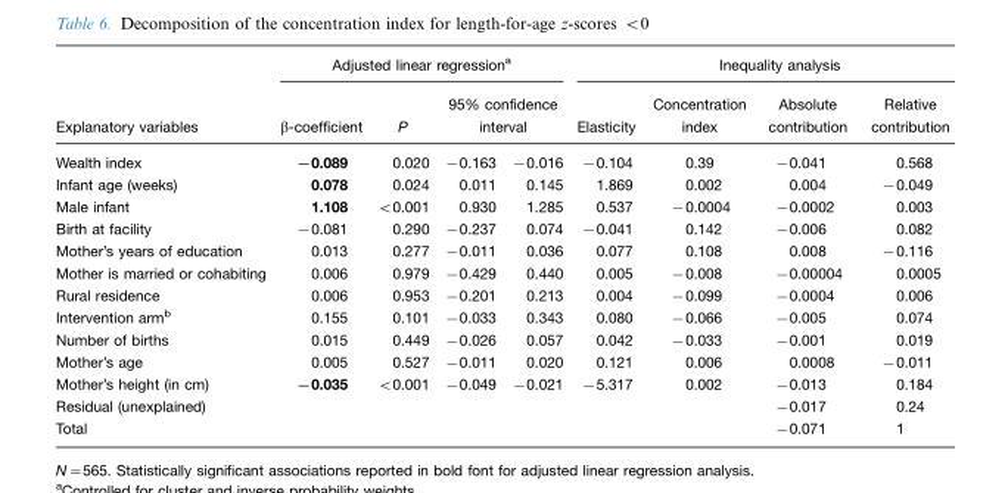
<table><thead><tr><td rowspan="3">Explanatory variables Wealth index</td><td colspan="4">Adjusted linear regression<sup>a</sup></td><td colspan="4">Inequality analysis</td></tr><tr><td rowspan="2">β-coefficient −0.089</td><td rowspan="2">P 0.020</td><td colspan="2">95% confidence interval</td><td rowspan="2">Elasticity −0.104</td><td rowspan="2">Concentration index 0.39</td><td rowspan="2">Absolute contribution −0.041</td><td rowspan="2">Relative contribution 0.568</td></tr><tr><td>−0.163</td><td>−0.016</td></tr></thead><tbody><tr><td>Infant age (weeks)</td><td>0.078</td><td>0.024</td><td>0.011</td><td>0.145</td><td>1.869</td><td>0.002</td><td>0.004</td><td>−0.049</td></tr><tr><td>Male infant</td><td>1.108</td><td>&lt;0.001</td><td>0.930</td><td>1.285</td><td>0.537</td><td>−0.0004</td><td>−0.0002</td><td>0.003</td></tr><tr><td>Birth at facility</td><td>−0.081</td><td>0.290</td><td>−0.237</td><td>0.074</td><td>−0.041</td><td>0.142</td><td>−0.006</td><td>0.082</td></tr><tr><td>Mother’s years of education</td><td>0.013</td><td>0.277</td><td>−0.011</td><td>0.036</td><td>0.077</td><td>0.108</td><td>0.008</td><td>−0.116</td></tr><tr><td>Mother is married or cohabiting</td><td>0.006</td><td>0.979</td><td>−0.429</td><td>0.440</td><td>0.005</td><td>−0.008</td><td>−0.00004</td><td>0.0005</td></tr><tr><td>Rural residence</td><td>0.006</td><td>0.953</td><td>−0.201</td><td>0.213</td><td>0.004</td><td>−0.099</td><td>−0.0004</td><td>0.006</td></tr><tr><td>Intervention arm<sup>b</sup></td><td>0.155</td><td>0.101</td><td>−0.033</td><td>0.343</td><td>0.080</td><td>−0.066</td><td>−0.005</td><td>0.074</td></tr><tr><td>Number of births</td><td>0.015</td><td>0.449</td><td>−0.026</td><td>0.057</td><td>0.042</td><td>−0.033</td><td>−0.001</td><td>0.019</td></tr><tr><td>Mother’s age</td><td>0.005</td><td>0.527</td><td>−0.011</td><td>0.020</td><td>0.121</td><td>0.006</td><td>0.0008</td><td>−0.011</td></tr><tr><td>Mother’s height (in cm)</td><td>−0.035</td><td>&lt;0.001</td><td>−0.049</td><td>−0.021</td><td>−5.317</td><td>0.002</td><td>−0.013</td><td>0.184</td></tr><tr><td>Residual (unexplained)</td><td></td><td></td><td></td><td></td><td></td><td></td><td>−0.017</td><td>0.24</td></tr><tr><td>Total</td><td></td><td></td><td></td><td></td><td></td><td></td><td>−0.071</td><td>1</td></tr></tbody></table>